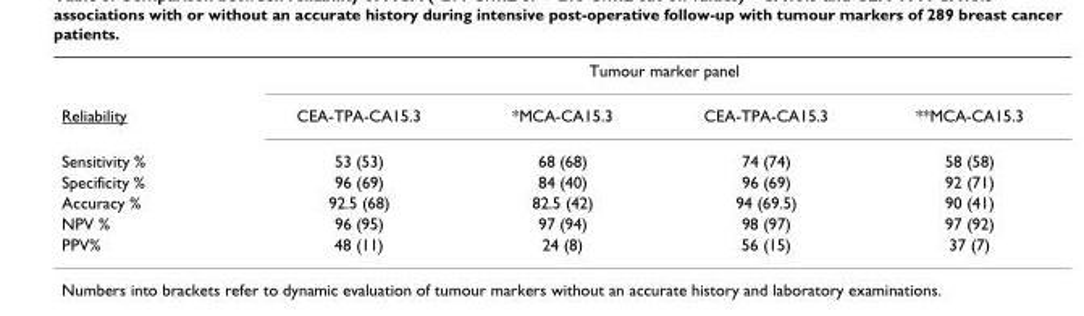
<table><thead><tr><td rowspan="2">Reliability</td><td colspan="4">Tumour marker panel</td></tr><tr><td>CEA-TPA-CA15.3</td><td>*MCA-CA15.3</td><td>CEA-TPA-CA15.3</td><td>**MCA-CA15.3</td></tr></thead><tbody><tr><td>Sensitivity %</td><td>53 (53)</td><td>68 (68)</td><td>74 (74)</td><td>58 (58)</td></tr><tr><td>Specificity %</td><td>96 (69)</td><td>84 (40)</td><td>96 (69)</td><td>92 (71)</td></tr><tr><td>Accuracy %</td><td>92.5 (68)</td><td>82.5 (42)</td><td>94 (69.5)</td><td>90 (41)</td></tr><tr><td>NPV %</td><td>96 (95)</td><td>97 (94)</td><td>98 (97)</td><td>97 (92)</td></tr><tr><td>PPV%</td><td>48 (11)</td><td>24 (8)</td><td>56 (15)</td><td>37 (7)</td></tr></tbody></table>